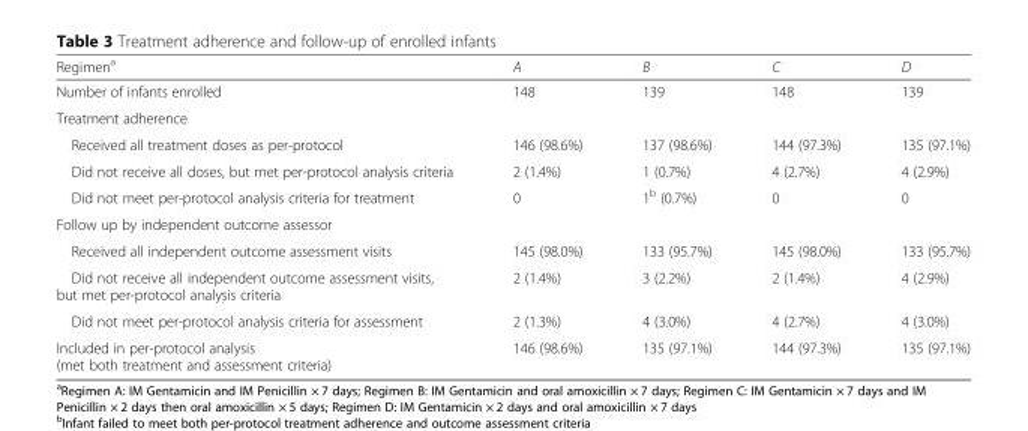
<table><thead><tr><td>Regimen<sup>a</sup></td><td>A</td><td>B</td><td>C</td><td>D</td></tr></thead><tbody><tr><td>Number of infants enrolled</td><td>148</td><td>139</td><td>148</td><td>139</td></tr><tr><td colspan="5">Treatment adherence</td></tr><tr><td>Received all treatment doses as per-protocol</td><td>146 (98.6%)</td><td>137 (98.6%)</td><td>144 (97.3%)</td><td>135 (97.1%)</td></tr><tr><td>Did not receive all doses, but met per-protocol analysis criteria</td><td>2 (1.4%)</td><td>1 (0.7%)</td><td>4 (2.7%)</td><td>4 (2.9%)</td></tr><tr><td>Did not meet per-protocol analysis criteria for treatment</td><td>0</td><td>1<sup>b</sup> (0.7%)</td><td>0</td><td>0</td></tr><tr><td colspan="5">Follow up by independent outcome assessor</td></tr><tr><td>Received all independent outcome assessment visits</td><td>145 (98.0%)</td><td>133 (95.7%)</td><td>145 (98.0%)</td><td>133 (95.7%)</td></tr><tr><td>Did not receive all independent outcome assessment visits, but met per-protocol analysis criteria</td><td>2 (1.4%)</td><td>3 (2.2%)</td><td>2 (1.4%)</td><td>4 (2.9%)</td></tr><tr><td>Did not meet per-protocol analysis criteria for assessment</td><td>2 (1.3%)</td><td>4 (3.0%)</td><td>4 (2.7%)</td><td>4 (3.0%)</td></tr><tr><td>Included in per-protocol analysis (met both treatment and assessment criteria)</td><td>146 (98.6%)</td><td>135 (97.1%)</td><td>144 (97.3%)</td><td>135 (97.1%)</td></tr></tbody></table>